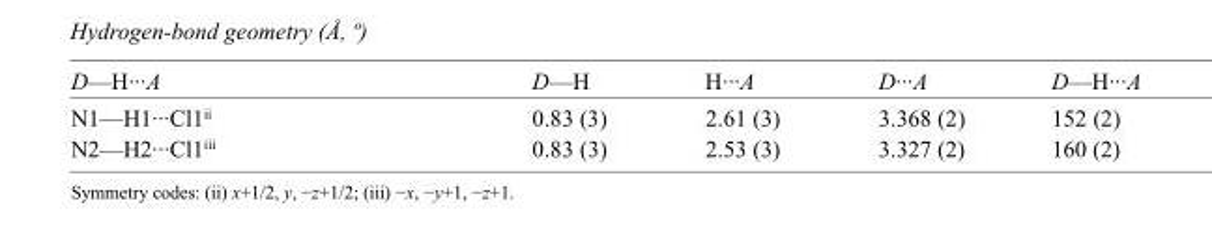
<table><tbody><tr><td>D—H···A</td><td>D—H</td><td>H···A</td><td>D···A</td><td>D—H···A</td></tr><tr><td>N1—H1···Cl1<sup>ii</sup></td><td>0.83 (3)</td><td>2.61 (3)</td><td>3.368 (2)</td><td>152 (2)</td></tr><tr><td>N2—H2···Cl1<sup>iii</sup></td><td>0.83 (3)</td><td>2.53 (3)</td><td>3.327 (2)</td><td>160 (2)</td></tr></tbody></table>